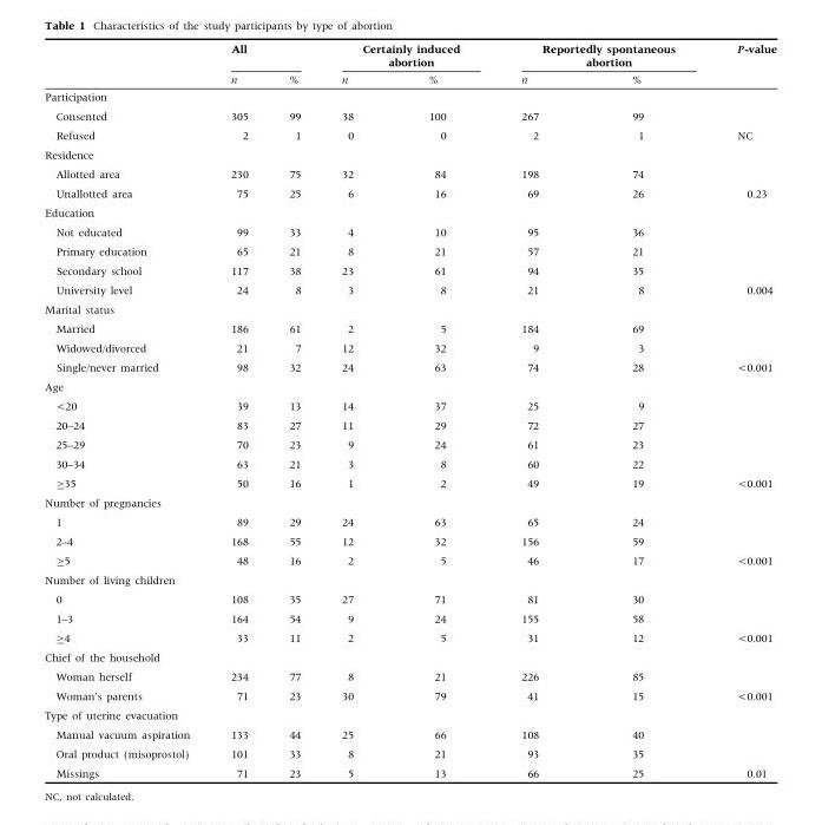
<table><thead><tr><td rowspan="2"></td><td colspan="2">All</td><td colspan="2">Certainly induced abortion</td><td colspan="2">Reportedly spontaneous abortion</td><td rowspan="2">P-value</td></tr><tr><td>n</td><td>%</td><td>n</td><td>%</td><td>n</td><td>%</td></tr></thead><tbody><tr><td colspan="8">Participation</td></tr><tr><td>Consented</td><td>305</td><td>99</td><td>38</td><td>100</td><td>267</td><td>99</td><td></td></tr><tr><td>Refused</td><td>2</td><td>1</td><td>0</td><td>0</td><td>2</td><td>1</td><td>NC</td></tr><tr><td colspan="8">Residence</td></tr><tr><td>Allotted area</td><td>230</td><td>75</td><td>32</td><td>84</td><td>198</td><td>74</td><td></td></tr><tr><td>Unallotted area</td><td>75</td><td>25</td><td>6</td><td>16</td><td>69</td><td>26</td><td>0.23</td></tr><tr><td colspan="8">Education</td></tr><tr><td>Not educated</td><td>99</td><td>33</td><td>4</td><td>10</td><td>95</td><td>36</td><td></td></tr><tr><td>Primary education</td><td>65</td><td>21</td><td>8</td><td>21</td><td>57</td><td>21</td><td></td></tr><tr><td>Secondary school</td><td>117</td><td>38</td><td>23</td><td>61</td><td>94</td><td>35</td><td></td></tr><tr><td>University level</td><td>24</td><td>8</td><td>3</td><td>8</td><td>21</td><td>8</td><td>0.004</td></tr><tr><td colspan="8">Marital status</td></tr><tr><td>Married</td><td>186</td><td>61</td><td>2</td><td>5</td><td>184</td><td>69</td><td></td></tr><tr><td>Widowed/divorced</td><td>21</td><td>7</td><td>12</td><td>32</td><td>9</td><td>3</td><td></td></tr><tr><td>Single/never married</td><td>98</td><td>32</td><td>24</td><td>63</td><td>74</td><td>28</td><td>&lt;0.001</td></tr><tr><td colspan="8">Age</td></tr><tr><td>&lt;20</td><td>39</td><td>13</td><td>14</td><td>37</td><td>25</td><td>9</td><td></td></tr><tr><td>20–24</td><td>83</td><td>27</td><td>11</td><td>29</td><td>72</td><td>27</td><td></td></tr><tr><td>25–29</td><td>70</td><td>23</td><td>9</td><td>24</td><td>61</td><td>23</td><td></td></tr><tr><td>30–34</td><td>63</td><td>21</td><td>3</td><td>8</td><td>60</td><td>22</td><td></td></tr><tr><td>≥35</td><td>50</td><td>16</td><td>1</td><td>2</td><td>49</td><td>19</td><td>&lt;0.001</td></tr><tr><td colspan="8">Number of pregnancies</td></tr><tr><td>1</td><td>89</td><td>29</td><td>24</td><td>63</td><td>65</td><td>24</td><td></td></tr><tr><td>2–4</td><td>168</td><td>55</td><td>12</td><td>32</td><td>156</td><td>59</td><td></td></tr><tr><td>≥5</td><td>48</td><td>16</td><td>2</td><td>5</td><td>46</td><td>17</td><td>&lt;0.001</td></tr><tr><td colspan="8">Number of living children</td></tr><tr><td>0</td><td>108</td><td>35</td><td>27</td><td>71</td><td>81</td><td>30</td><td></td></tr><tr><td>1–3</td><td>164</td><td>54</td><td>9</td><td>24</td><td>155</td><td>58</td><td></td></tr><tr><td>≥4</td><td>33</td><td>11</td><td>2</td><td>5</td><td>31</td><td>12</td><td>&lt;0.001</td></tr><tr><td colspan="8">Chief of the household</td></tr><tr><td>Woman herself</td><td>234</td><td>77</td><td>8</td><td>21</td><td>226</td><td>85</td><td></td></tr><tr><td>Woman’s parents</td><td>71</td><td>23</td><td>30</td><td>79</td><td>41</td><td>15</td><td>&lt;0.001</td></tr><tr><td colspan="8">Type of uterine evacuation</td></tr><tr><td>Manual vacuum aspiration</td><td>133</td><td>44</td><td>25</td><td>66</td><td>108</td><td>40</td><td></td></tr><tr><td>Oral product (misoprostol)</td><td>101</td><td>33</td><td>8</td><td>21</td><td>93</td><td>35</td><td></td></tr><tr><td>Missings</td><td>71</td><td>23</td><td>5</td><td>13</td><td>66</td><td>25</td><td>0.01</td></tr></tbody></table>